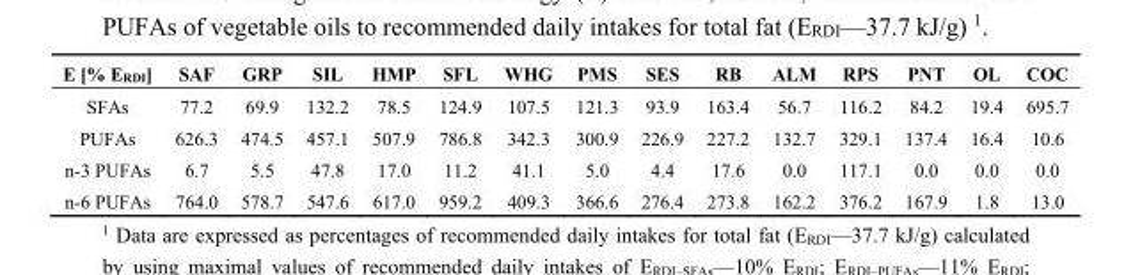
<table><thead><tr><td>E [% E<sub>RDI</sub>]</td><td>SAF</td><td>GRP</td><td>SIL</td><td>HMP</td><td>SFL</td><td>WHG</td><td>PMS</td><td>SES</td><td>RB</td><td>ALM</td><td>RPS</td><td>PNT</td><td>OL</td><td>COC</td></tr></thead><tbody><tr><td>SFAs</td><td>77.2</td><td>69.9</td><td>132.2</td><td>78.5</td><td>124.9</td><td>107.5</td><td>121.3</td><td>93.9</td><td>163.4</td><td>56.7</td><td>116.2</td><td>84.2</td><td>19.4</td><td>695.7</td></tr><tr><td>PUFAs</td><td>626.3</td><td>474.5</td><td>457.1</td><td>507.9</td><td>786.8</td><td>342.3</td><td>300.9</td><td>226.9</td><td>227.2</td><td>132.7</td><td>329.1</td><td>137.4</td><td>16.4</td><td>10.6</td></tr><tr><td>n-3 PUFAs</td><td>6.7</td><td>5.5</td><td>47.8</td><td>17.0</td><td>11.2</td><td>41.1</td><td>5.0</td><td>4.4</td><td>17.6</td><td>0.0</td><td>117.1</td><td>0.0</td><td>0.0</td><td>0.0</td></tr><tr><td>n-6 PUFAs</td><td>764.0</td><td>578.7</td><td>547.6</td><td>617.0</td><td>959.2</td><td>409.3</td><td>366.6</td><td>276.4</td><td>273.8</td><td>162.2</td><td>376.2</td><td>167.9</td><td>1.8</td><td>13.0</td></tr></tbody></table>